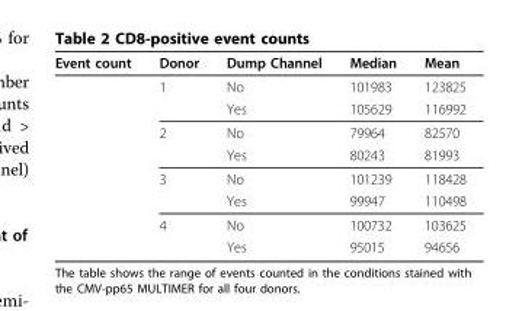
<table><thead><tr><td>Event count</td><td>Donor</td><td>Dump Channel</td><td>Median</td><td>Mean</td></tr></thead><tbody><tr><td></td><td>1</td><td>No</td><td>101983</td><td>123825</td></tr><tr><td></td><td></td><td>Yes</td><td>105629</td><td>116992</td></tr><tr><td></td><td>2</td><td>No</td><td>79964</td><td>82570</td></tr><tr><td></td><td></td><td>Yes</td><td>80243</td><td>81993</td></tr><tr><td></td><td>3</td><td>No</td><td>101239</td><td>118428</td></tr><tr><td></td><td></td><td>Yes</td><td>99947</td><td>110498</td></tr><tr><td></td><td>4</td><td>No</td><td>100732</td><td>103625</td></tr><tr><td></td><td></td><td>Yes</td><td>95015</td><td>94656</td></tr></tbody></table>